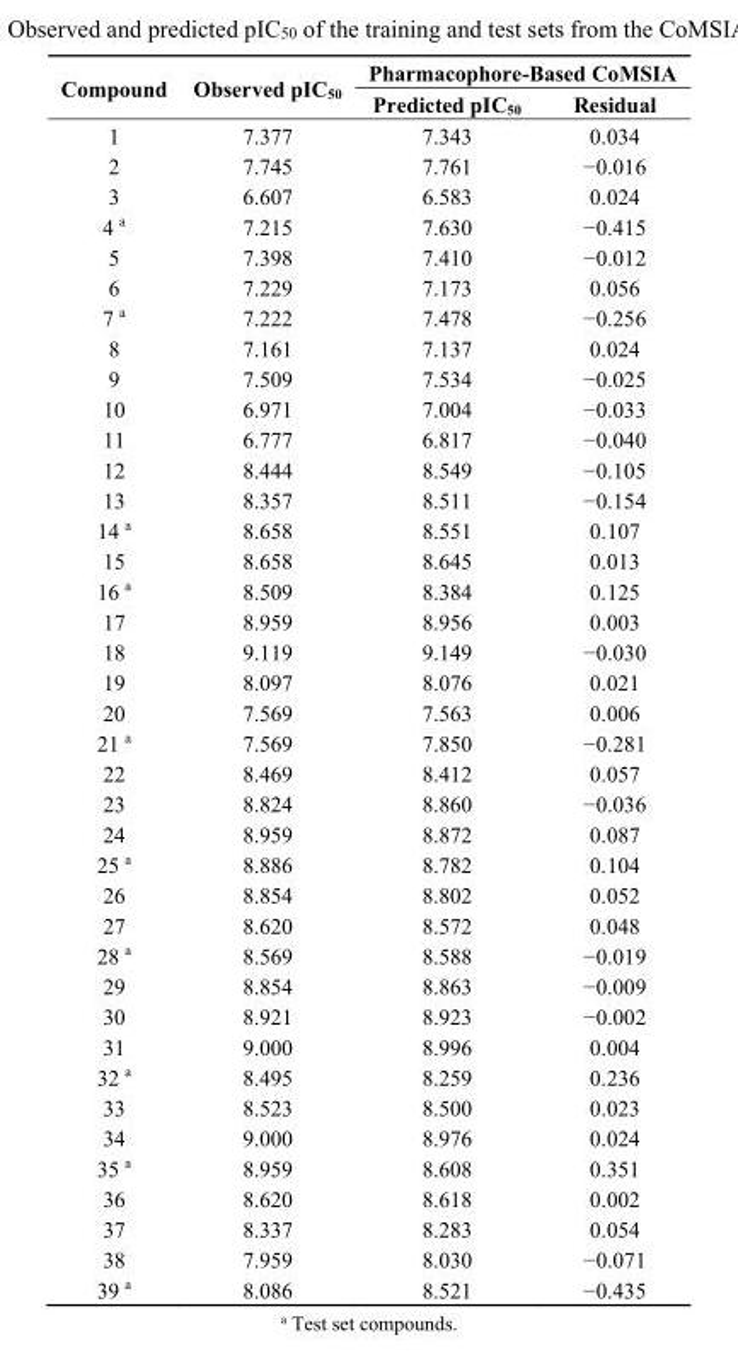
<table><thead><tr><td rowspan="2">Compound</td><td rowspan="2">Observed pIC<sub>50</sub></td><td colspan="2">Pharmacophore-Based CoMSIA</td></tr><tr><td>Predicted pIC<sub>50</sub></td><td>Residual</td></tr></thead><tbody><tr><td>1</td><td>7.377</td><td>7.343</td><td>0.034</td></tr><tr><td>2</td><td>7.745</td><td>7.761</td><td>−0.016</td></tr><tr><td>3</td><td>6.607</td><td>6.583</td><td>0.024</td></tr><tr><td>4 <sup>a</sup></td><td>7.215</td><td>7.630</td><td>−0.415</td></tr><tr><td>5</td><td>7.398</td><td>7.410</td><td>−0.012</td></tr><tr><td>6</td><td>7.229</td><td>7.173</td><td>0.056</td></tr><tr><td>7 <sup>a</sup></td><td>7.222</td><td>7.478</td><td>−0.256</td></tr><tr><td>8</td><td>7.161</td><td>7.137</td><td>0.024</td></tr><tr><td>9</td><td>7.509</td><td>7.534</td><td>−0.025</td></tr><tr><td>10</td><td>6.971</td><td>7.004</td><td>−0.033</td></tr><tr><td>11</td><td>6.777</td><td>6.817</td><td>−0.040</td></tr><tr><td>12</td><td>8.444</td><td>8.549</td><td>−0.105</td></tr><tr><td>13</td><td>8.357</td><td>8.511</td><td>−0.154</td></tr><tr><td>14 <sup>a</sup></td><td>8.658</td><td>8.551</td><td>0.107</td></tr><tr><td>15</td><td>8.658</td><td>8.645</td><td>0.013</td></tr><tr><td>16 <sup>a</sup></td><td>8.509</td><td>8.384</td><td>0.125</td></tr><tr><td>17</td><td>8.959</td><td>8.956</td><td>0.003</td></tr><tr><td>18</td><td>9.119</td><td>9.149</td><td>−0.030</td></tr><tr><td>19</td><td>8.097</td><td>8.076</td><td>0.021</td></tr><tr><td>20</td><td>7.569</td><td>7.563</td><td>0.006</td></tr><tr><td>21 <sup>a</sup></td><td>7.569</td><td>7.850</td><td>−0.281</td></tr><tr><td>22</td><td>8.469</td><td>8.412</td><td>0.057</td></tr><tr><td>23</td><td>8.824</td><td>8.860</td><td>−0.036</td></tr><tr><td>24</td><td>8.959</td><td>8.872</td><td>0.087</td></tr><tr><td>25 <sup>a</sup></td><td>8.886</td><td>8.782</td><td>0.104</td></tr><tr><td>26</td><td>8.854</td><td>8.802</td><td>0.052</td></tr><tr><td>27</td><td>8.620</td><td>8.572</td><td>0.048</td></tr><tr><td>28 <sup>a</sup></td><td>8.569</td><td>8.588</td><td>−0.019</td></tr><tr><td>29</td><td>8.854</td><td>8.863</td><td>−0.009</td></tr><tr><td>30</td><td>8.921</td><td>8.923</td><td>−0.002</td></tr><tr><td>31</td><td>9.000</td><td>8.996</td><td>0.004</td></tr><tr><td>32 <sup>a</sup></td><td>8.495</td><td>8.259</td><td>0.236</td></tr><tr><td>33</td><td>8.523</td><td>8.500</td><td>0.023</td></tr><tr><td>34</td><td>9.000</td><td>8.976</td><td>0.024</td></tr><tr><td>35 <sup>a</sup></td><td>8.959</td><td>8.608</td><td>0.351</td></tr><tr><td>36</td><td>8.620</td><td>8.618</td><td>0.002</td></tr><tr><td>37</td><td>8.337</td><td>8.283</td><td>0.054</td></tr><tr><td>38</td><td>7.959</td><td>8.030</td><td>−0.071</td></tr><tr><td>39 <sup>a</sup></td><td>8.086</td><td>8.521</td><td>−0.435</td></tr></tbody></table>